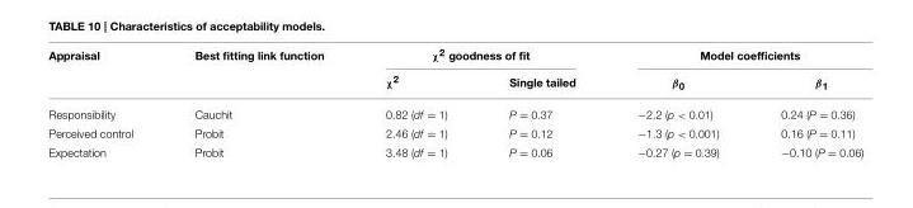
<table><thead><tr><td rowspan="2">Appraisal</td><td rowspan="2">Best fitting link function</td><td colspan="2">χ<sup>2</sup> goodness of fit</td><td colspan="2">Model coefficients</td></tr><tr><td>χ<sup>2</sup></td><td>Single tailed</td><td>β<sub>0</sub></td><td>β<sub>1</sub></td></tr></thead><tbody><tr><td>Responsibility</td><td>Cauchit</td><td>0.82 (df = 1)</td><td>P = 0.37</td><td>−2.2 (p &lt; 0.01)</td><td>0.24 (P = 0.36)</td></tr><tr><td>Perceived control</td><td>Probit</td><td>2.46 (df = 1)</td><td>P = 0.12</td><td>−1.3 (p &lt; 0.001)</td><td>0.16 (P = 0.11)</td></tr><tr><td>Expectation</td><td>Probit</td><td>3.48 (df = 1)</td><td>P = 0.06</td><td>−0.27 (p = 0.39)</td><td>−0.10 (P = 0.06)</td></tr></tbody></table>